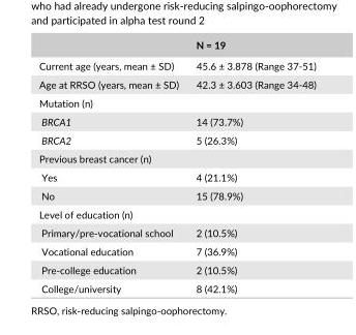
<table><thead><tr><td></td><td>N = 19</td></tr></thead><tbody><tr><td>Current age (years, mean ± SD)</td><td>45.6 ± 3.878 (Range 37-51)</td></tr><tr><td>Age at RRSO (years, mean ± SD)</td><td>42.3 ± 3.603 (Range 34-48)</td></tr><tr><td colspan="2">Mutation (n)</td></tr><tr><td>BRCA1</td><td>14 (73.7%)</td></tr><tr><td>BRCA2</td><td>5 (26.3%)</td></tr><tr><td colspan="2">Previous breast cancer (n)</td></tr><tr><td>Yes</td><td>4 (21.1%)</td></tr><tr><td>No</td><td>15 (78.9%)</td></tr><tr><td colspan="2">Level of education (n)</td></tr><tr><td>Primary/pre- vocational school</td><td>2 (10.5%)</td></tr><tr><td>Vocational education</td><td>7 (36.9%)</td></tr><tr><td>Pre- college education</td><td>2 (10.5%)</td></tr><tr><td>College/university</td><td>8 (42.1%)</td></tr></tbody></table>